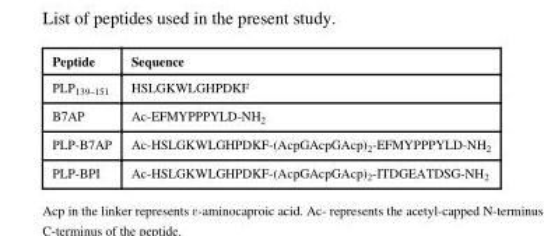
<table><thead><tr><td>Peptide</td><td>Sequence</td></tr></thead><tbody><tr><td>PLP<sub>139–151</sub></td><td>HSLGKWLGHPDKF</td></tr><tr><td>B7AP</td><td>Ac-EFMYPPPYLD-NH<sub>2</sub></td></tr><tr><td>PLP-B7AP</td><td>Ac-HSLGKWLGHPDKF-(AcpGAcpGAcp)<sub>2</sub>-EFMYPPPYLD-NH<sub>2</sub></td></tr><tr><td>PLP-BPI</td><td>Ac-HSLGKWLGHPDKF-(AcpGAcpGAcp)<sub>2</sub>-ITDGEATDSG-NH<sub>2</sub></td></tr></tbody></table>